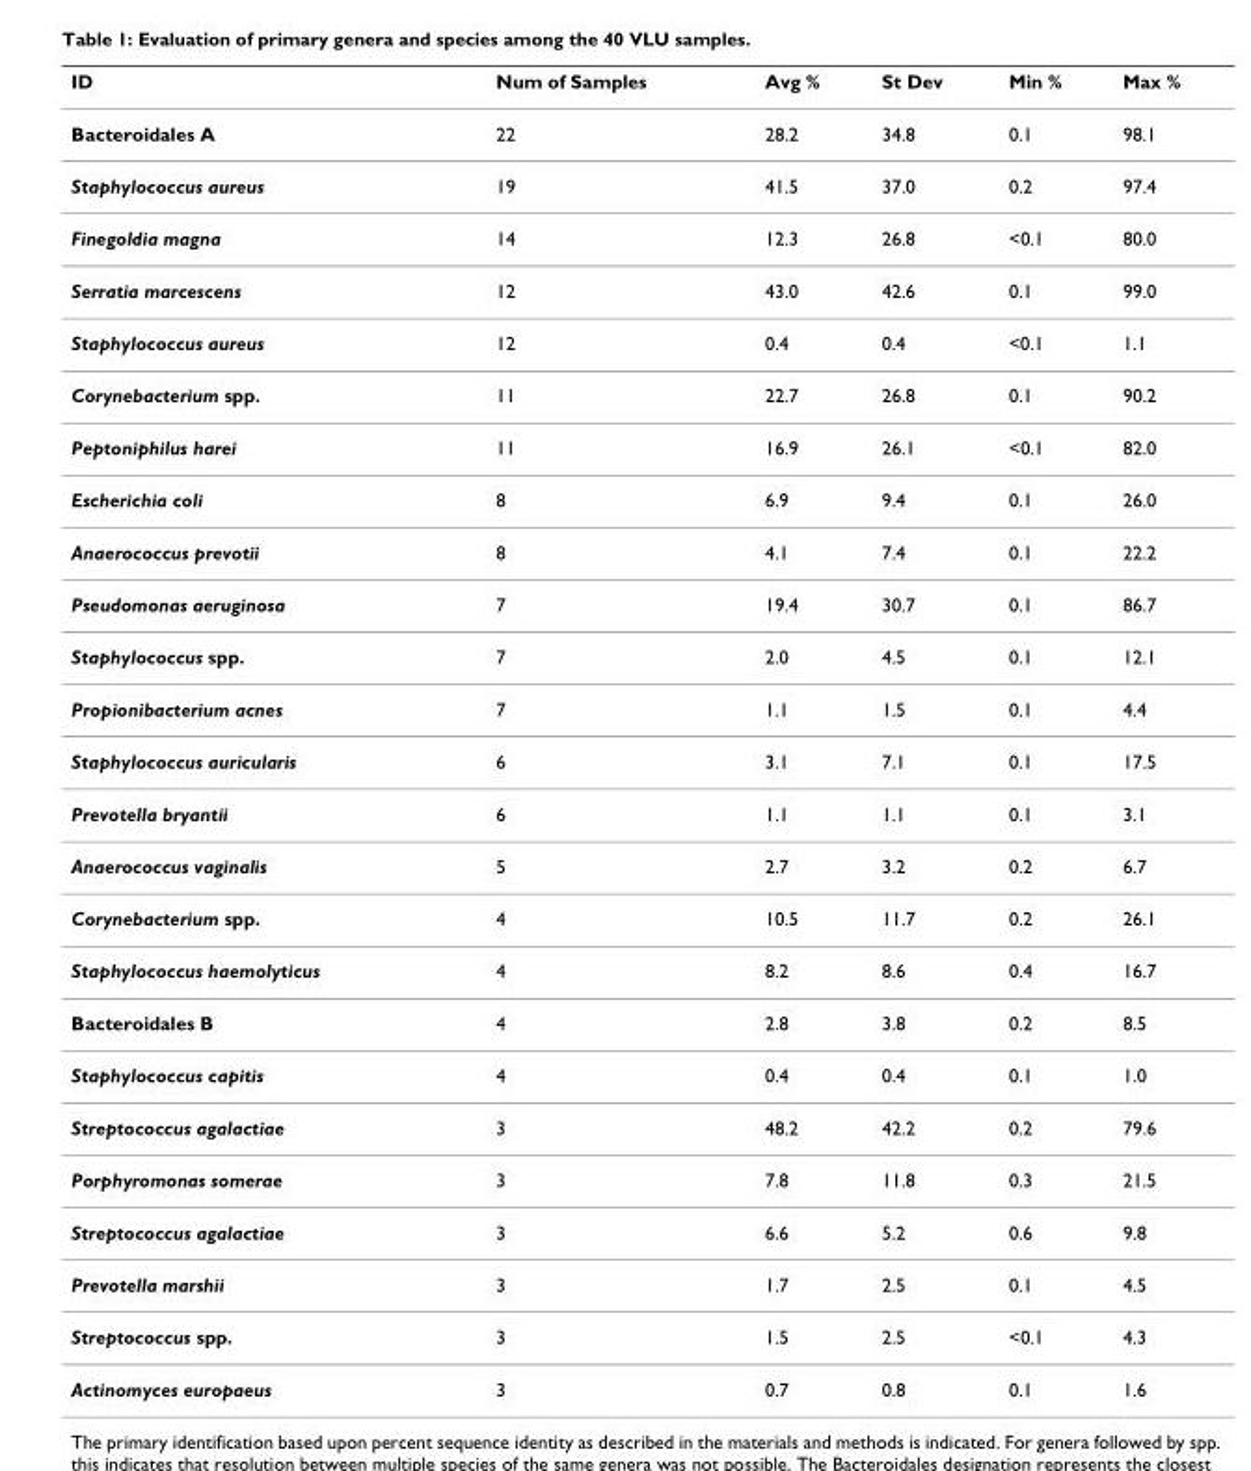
<table><thead><tr><td>ID</td><td>Num of Samples</td><td>Avg %</td><td>St Dev</td><td>Min %</td><td>Max %</td></tr></thead><tbody><tr><td>Bacteroidales A</td><td>22</td><td>28.2</td><td>34.8</td><td>0.1</td><td>98.1</td></tr><tr><td>Staphylococcus aureus</td><td>19</td><td>41.5</td><td>37.0</td><td>0.2</td><td>97.4</td></tr><tr><td>Finegoldia magna</td><td>14</td><td>12.3</td><td>26.8</td><td>&lt;0.1</td><td>80.0</td></tr><tr><td>Serratia marcescens</td><td>12</td><td>43.0</td><td>42.6</td><td>0.1</td><td>99.0</td></tr><tr><td>Staphylococcus aureus</td><td>12</td><td>0.4</td><td>0.4</td><td>&lt;0.1</td><td>1.1</td></tr><tr><td>Corynebacterium spp.</td><td>11</td><td>22.7</td><td>26.8</td><td>0.1</td><td>90.2</td></tr><tr><td>Peptoniphilus harei</td><td>11</td><td>16.9</td><td>26.1</td><td>&lt;0.1</td><td>82.0</td></tr><tr><td>Escherichia coli</td><td>8</td><td>6.9</td><td>9.4</td><td>0.1</td><td>26.0</td></tr><tr><td>Anaerococcus prevotii</td><td>8</td><td>4.1</td><td>7.4</td><td>0.1</td><td>22.2</td></tr><tr><td>Pseudomonas aeruginosa</td><td>7</td><td>19.4</td><td>30.7</td><td>0.1</td><td>86.7</td></tr><tr><td>Staphylococcus spp.</td><td>7</td><td>2.0</td><td>4.5</td><td>0.1</td><td>12.1</td></tr><tr><td>Propionibacterium acnes</td><td>7</td><td>1.1</td><td>1.5</td><td>0.1</td><td>4.4</td></tr><tr><td>Staphylococcus auricularis</td><td>6</td><td>3.1</td><td>7.1</td><td>0.1</td><td>17.5</td></tr><tr><td>Prevotella bryantii</td><td>6</td><td>1.1</td><td>1.1</td><td>0.1</td><td>3.1</td></tr><tr><td>Anaerococcus vaginalis</td><td>5</td><td>2.7</td><td>3.2</td><td>0.2</td><td>6.7</td></tr><tr><td>Corynebacterium spp.</td><td>4</td><td>10.5</td><td>11.7</td><td>0.2</td><td>26.1</td></tr><tr><td>Staphylococcus haemolyticus</td><td>4</td><td>8.2</td><td>8.6</td><td>0.4</td><td>16.7</td></tr><tr><td>Bacteroidales B</td><td>4</td><td>2.8</td><td>3.8</td><td>0.2</td><td>8.5</td></tr><tr><td>Staphylococcus capitis</td><td>4</td><td>0.4</td><td>0.4</td><td>0.1</td><td>1.0</td></tr><tr><td>Streptococcus agalactiae</td><td>3</td><td>48.2</td><td>42.2</td><td>0.2</td><td>79.6</td></tr><tr><td>Porphyromonas somerae</td><td>3</td><td>7.8</td><td>11.8</td><td>0.3</td><td>21.5</td></tr><tr><td>Streptococcus agalactiae</td><td>3</td><td>6.6</td><td>5.2</td><td>0.6</td><td>9.8</td></tr><tr><td>Prevotella marshii</td><td>3</td><td>1.7</td><td>2.5</td><td>0.1</td><td>4.5</td></tr><tr><td>Streptococcus spp.</td><td>3</td><td>1.5</td><td>2.5</td><td>&lt;0.1</td><td>4.3</td></tr><tr><td>Actinomyces europaeus</td><td>3</td><td>0.7</td><td>0.8</td><td>0.1</td><td>1.6</td></tr></tbody></table>